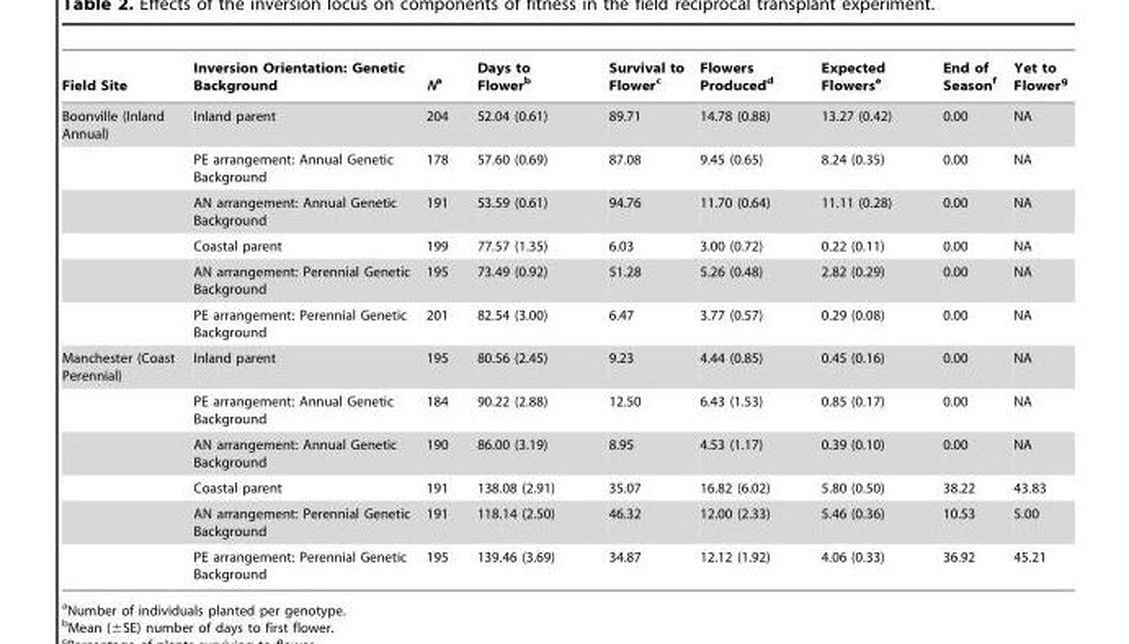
<table><thead><tr><td>Field Site</td><td>Inversion Orientation: Genetic Background</td><td>Na</td><td>Days to Flower<sup>b</sup></td><td>Survival to Flower<sup>c</sup></td><td>Flowers Produced<sup>d</sup></td><td>Expected Flowers<sup>e</sup></td><td>End of Season<sup>f</sup></td><td>Yet to Flower<sup>g</sup></td></tr></thead><tbody><tr><td rowspan="6">Boonville (Inland Annual)</td><td>Inland parent</td><td>204</td><td>52.04 (0.61)</td><td>89.71</td><td>14.78 (0.88)</td><td>13.27 (0.42)</td><td>0.00</td><td>NA</td></tr><tr><td>PE arrangement: Annual Genetic Background</td><td>178</td><td>57.60 (0.69)</td><td>87.08</td><td>9.45 (0.65)</td><td>8.24 (0.35)</td><td>0.00</td><td>NA</td></tr><tr><td>AN arrangement: Annual Genetic Background</td><td>191</td><td>53.59 (0.61)</td><td>94.76</td><td>11.70 (0.64)</td><td>11.11 (0.28)</td><td>0.00</td><td>NA</td></tr><tr><td>Coastal parent</td><td>199</td><td>77.57 (1.35)</td><td>6.03</td><td>3.00 (0.72)</td><td>0.22 (0.11)</td><td>0.00</td><td>NA</td></tr><tr><td>AN arrangement: Perennial Genetic Background</td><td>195</td><td>73.49 (0.92)</td><td>51.28</td><td>5.26 (0.48)</td><td>2.82 (0.29)</td><td>0.00</td><td>NA</td></tr><tr><td>PE arrangement: Perennial Genetic Background</td><td>201</td><td>82.54 (3.00)</td><td>6.47</td><td>3.77 (0.57)</td><td>0.29 (0.08)</td><td>0.00</td><td>NA</td></tr><tr><td rowspan="6">Manchester (Coast Perennial)</td><td>Inland parent</td><td>195</td><td>80.56 (2.45)</td><td>9.23</td><td>4.44 (0.85)</td><td>0.45 (0.16)</td><td>0.00</td><td>NA</td></tr><tr><td>PE arrangement: Annual Genetic Background</td><td>184</td><td>90.22 (2.88)</td><td>12.50</td><td>6.43 (1.53)</td><td>0.85 (0.17)</td><td>0.00</td><td>NA</td></tr><tr><td>AN arrangement: Annual Genetic Background</td><td>190</td><td>86.00 (3.19)</td><td>8.95</td><td>4.53 (1.17)</td><td>0.39 (0.10)</td><td>0.00</td><td>NA</td></tr><tr><td>Coastal parent</td><td>191</td><td>138.08 (2.91)</td><td>35.07</td><td>16.82 (6.02)</td><td>5.80 (0.50)</td><td>38.22</td><td>43.83</td></tr><tr><td>AN arrangement: Perennial Genetic Background</td><td>191</td><td>118.14 (2.50)</td><td>46.32</td><td>12.00 (2.33)</td><td>5.46 (0.36)</td><td>10.53</td><td>5.00</td></tr><tr><td>PE arrangement: Perennial Genetic Background</td><td>195</td><td>139.46 (3.69)</td><td>34.87</td><td>12.12 (1.92)</td><td>4.06 (0.33)</td><td>36.92</td><td>45.21</td></tr></tbody></table>